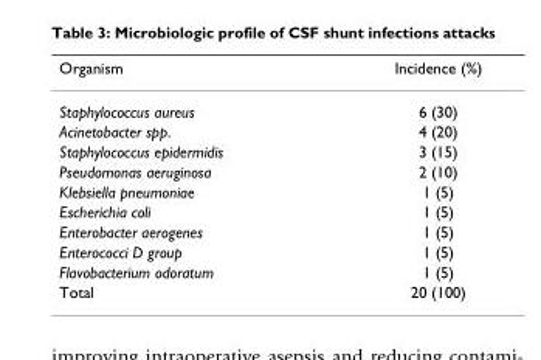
<table><thead><tr><td>Organism</td><td>Incidence (%)</td></tr></thead><tbody><tr><td>Staphylococcus aureus</td><td>6 (30)</td></tr><tr><td>Acinetobacter spp.</td><td>4 (20)</td></tr><tr><td>Staphylococcus epidermidis</td><td>3 (15)</td></tr><tr><td>Pseudomonas aeruginosa</td><td>2 (10)</td></tr><tr><td>Klebsiella pneumoniae</td><td>1 (5)</td></tr><tr><td>Escherichia coli</td><td>1 (5)</td></tr><tr><td>Enterobacter aerogenes</td><td>1 (5)</td></tr><tr><td>Enterococci D group</td><td>1 (5)</td></tr><tr><td>Flavobacterium odoratum</td><td>1 (5)</td></tr><tr><td>Total</td><td>20 (100)</td></tr></tbody></table>